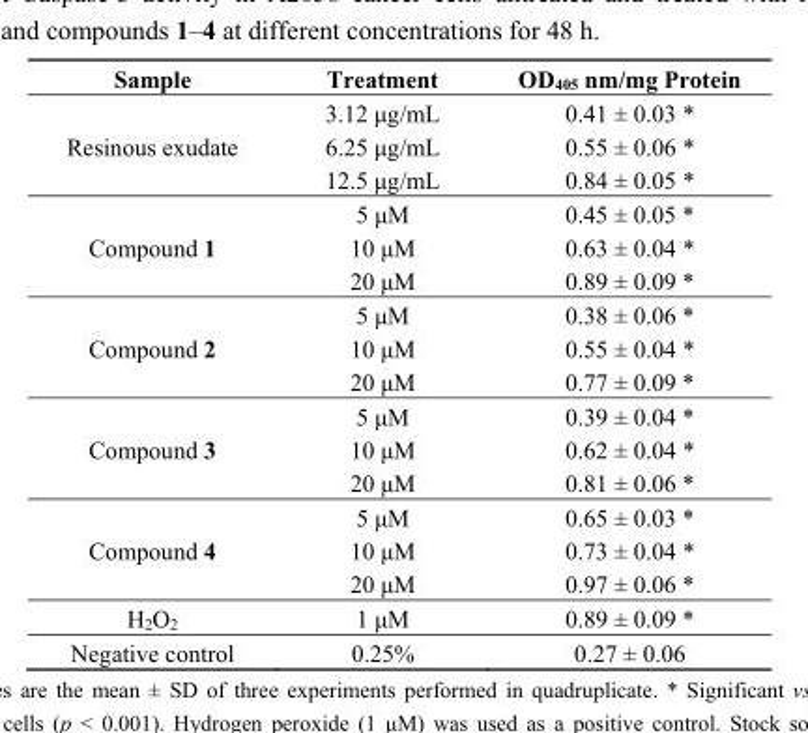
<table><thead><tr><td>Sample</td><td>Treatment</td><td>OD<sub>405</sub> nm/mg Protein</td></tr></thead><tbody><tr><td rowspan="3">Resinous exudate</td><td>3.12 μg/mL</td><td>0.41 ± 0.03 *</td></tr><tr><td>6.25 μg/mL</td><td>0.55 ± 0.06 *</td></tr><tr><td>12.5 μg/mL</td><td>0.84 ± 0.05 *</td></tr><tr><td rowspan="3">Compound 1</td><td>5 μM</td><td>0.45 ± 0.05 *</td></tr><tr><td>10 μM</td><td>0.63 ± 0.04 *</td></tr><tr><td>20 μM</td><td>0.89 ± 0.09 *</td></tr><tr><td rowspan="3">Compound 2</td><td>5 μM</td><td>0.38 ± 0.06 *</td></tr><tr><td>10 μM</td><td>0.55 ± 0.04 *</td></tr><tr><td>20 μM</td><td>0.77 ± 0.09 *</td></tr><tr><td rowspan="3">Compound 3</td><td>5 μM</td><td>0.39 ± 0.04 *</td></tr><tr><td>10 μM</td><td>0.62 ± 0.04 *</td></tr><tr><td>20 μM</td><td>0.81 ± 0.06 *</td></tr><tr><td rowspan="3">Compound 4</td><td>5 μM</td><td>0.65 ± 0.03 *</td></tr><tr><td>10 μM</td><td>0.73 ± 0.04 *</td></tr><tr><td>20 μM</td><td>0.97 ± 0.06 *</td></tr><tr><td>H<sub>2</sub>O<sub>2</sub></td><td>1 μM</td><td>0.89 ± 0.09 *</td></tr><tr><td>Negative control</td><td>0.25%</td><td>0.27 ± 0.06</td></tr></tbody></table>